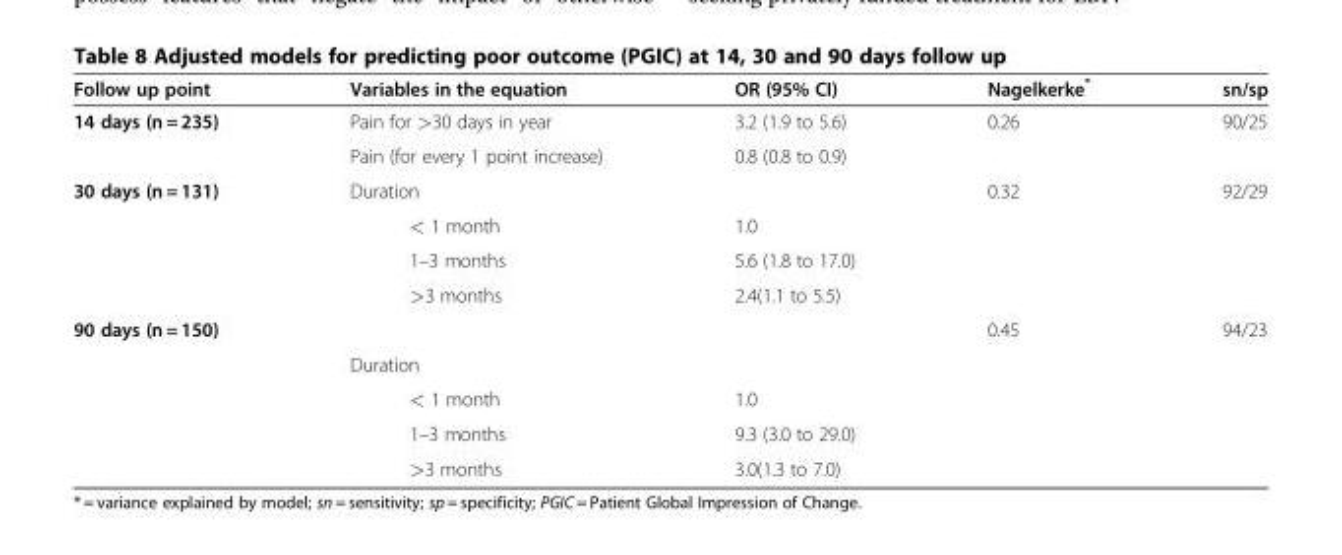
<table><thead><tr><td>Follow up point</td><td>Variables in the equation</td><td>OR (95% CI)</td><td>Nagelkerke*</td><td>sn/sp</td></tr></thead><tbody><tr><td rowspan="2">14 days (n = 235)</td><td>Pain for &gt;30 days in year</td><td>3.2 (1.9 to 5.6)</td><td>0.26</td><td>90/25</td></tr><tr><td>Pain (for every 1 point increase)</td><td>0.8 (0.8 to 0.9)</td><td></td><td></td></tr><tr><td rowspan="4">30 days (n = 131)</td><td>Duration</td><td></td><td>0.32</td><td>92/29</td></tr><tr><td>&lt; 1 month</td><td>1.0</td><td></td><td></td></tr><tr><td>1–3 months</td><td>5.6 (1.8 to 17.0)</td><td></td><td></td></tr><tr><td>&gt;3 months</td><td>2.4(1.1 to 5.5)</td><td></td><td></td></tr><tr><td rowspan="5">90 days (n = 150)</td><td></td><td></td><td>0.45</td><td>94/23</td></tr><tr><td>Duration</td><td></td><td></td><td></td></tr><tr><td>&lt; 1 month</td><td>1.0</td><td></td><td></td></tr><tr><td>1–3 months</td><td>9.3 (3.0 to 29.0)</td><td></td><td></td></tr><tr><td>&gt;3 months</td><td>3.0(1.3 to 7.0)</td><td></td><td></td></tr></tbody></table>